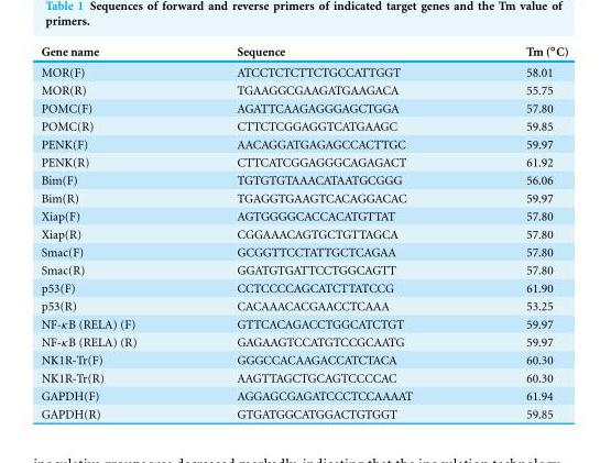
<table><thead><tr><td>Gene name</td><td>Sequence</td><td>Tm (◦C)</td></tr></thead><tbody><tr><td>MOR(F)</td><td>ATCCTCTCTTCTGCCATTGGT</td><td>58.01</td></tr><tr><td>MOR(R)</td><td>TGAAGGCGAAGATGAAGACA</td><td>55.75</td></tr><tr><td>POMC(F)</td><td>AGATTCAAGAGGGAGCTGGA</td><td>57.80</td></tr><tr><td>POMC(R)</td><td>CTTCTCGGAGGTCATGAAGC</td><td>59.85</td></tr><tr><td>PENK(F)</td><td>AACAGGATGAGAGCCACTTGC</td><td>59.97</td></tr><tr><td>PENK(R)</td><td>CTTCATCGGAGGGCAGAGACT</td><td>61.92</td></tr><tr><td>Bim(F)</td><td>TGTGTGTAAACATAATGCGGG</td><td>56.06</td></tr><tr><td>Bim(R)</td><td>TGAGGTGAAGTCACAGGACAC</td><td>59.97</td></tr><tr><td>Xiap(F)</td><td>AGTGGGGCACCACATGTTAT</td><td>57.80</td></tr><tr><td>Xiap(R)</td><td>CGGAAACAGTGCTGTTAGCA</td><td>57.80</td></tr><tr><td>Smac(F)</td><td>GCGGTTCCTATTGCTCAGAA</td><td>57.80</td></tr><tr><td>Smac(R)</td><td>GGATGTGATTCCTGGCAGTT</td><td>57.80</td></tr><tr><td>p53(F)</td><td>CCTCCCCAGCATCTTATCCG</td><td>61.90</td></tr><tr><td>p53(R)</td><td>CACAAACACGAACCTCAAA</td><td>53.25</td></tr><tr><td>NF-κB (RELA) (F)</td><td>GTTCACAGACCTGGCATCTGT</td><td>59.97</td></tr><tr><td>NF-κB (RELA) (R)</td><td>GAGAAGTCCATGTCCGCAATG</td><td>59.97</td></tr><tr><td>NK1R-Tr(F)</td><td>GGGCCACAAGACCATCTACA</td><td>60.30</td></tr><tr><td>NK1R-Tr(R)</td><td>AAGTTAGCTGCAGTCCCCAC</td><td>60.30</td></tr><tr><td>GAPDH(F)</td><td>AGGAGCGAGATCCCTCCAAAAT</td><td>61.94</td></tr><tr><td>GAPDH(R)</td><td>GTGATGGCATGGACTGTGGT</td><td>59.85</td></tr></tbody></table>